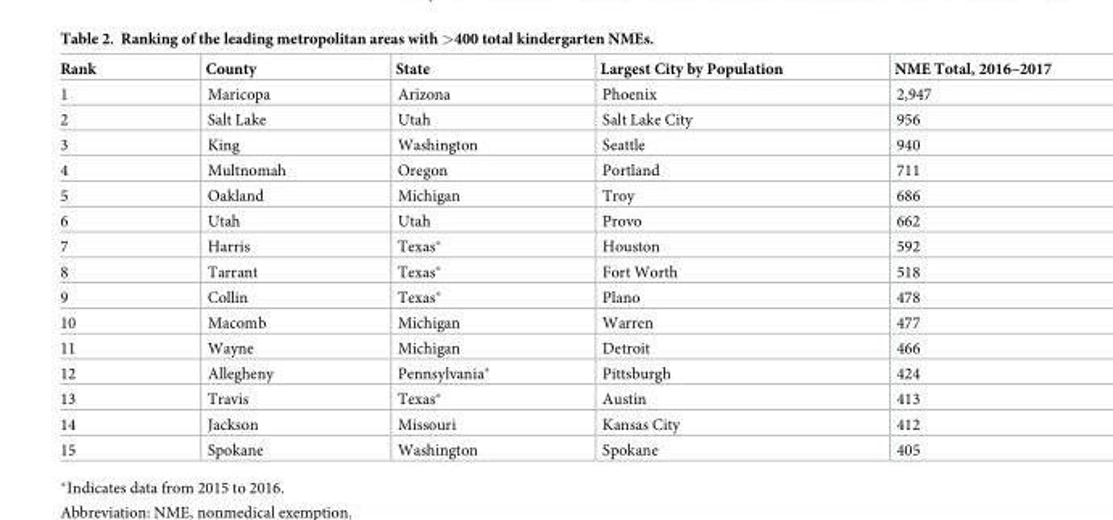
<table><thead><tr><td>Rank</td><td>County</td><td>State</td><td>Largest City by Population</td><td>NME Total, 2016–2017</td></tr></thead><tbody><tr><td>1</td><td>Maricopa</td><td>Arizona</td><td>Phoenix</td><td>2,947</td></tr><tr><td>2</td><td>Salt Lake</td><td>Utah</td><td>Salt Lake City</td><td>956</td></tr><tr><td>3</td><td>King</td><td>Washington</td><td>Seattle</td><td>940</td></tr><tr><td>4</td><td>Multnomah</td><td>Oregon</td><td>Portland</td><td>711</td></tr><tr><td>5</td><td>Oakland</td><td>Michigan</td><td>Troy</td><td>686</td></tr><tr><td>6</td><td>Utah</td><td>Utah</td><td>Provo</td><td>662</td></tr><tr><td>7</td><td>Harris</td><td>Texas*</td><td>Houston</td><td>592</td></tr><tr><td>8</td><td>Tarrant</td><td>Texas*</td><td>Fort Worth</td><td>518</td></tr><tr><td>9</td><td>Collin</td><td>Texas*</td><td>Plano</td><td>478</td></tr><tr><td>10</td><td>Macomb</td><td>Michigan</td><td>Warren</td><td>477</td></tr><tr><td>11</td><td>Wayne</td><td>Michigan</td><td>Detroit</td><td>466</td></tr><tr><td>12</td><td>Allegheny</td><td>Pennsylvania*</td><td>Pittsburgh</td><td>424</td></tr><tr><td>13</td><td>Travis</td><td>Texas*</td><td>Austin</td><td>413</td></tr><tr><td>14</td><td>Jackson</td><td>Missouri</td><td>Kansas City</td><td>412</td></tr><tr><td>15</td><td>Spokane</td><td>Washington</td><td>Spokane</td><td>405</td></tr></tbody></table>